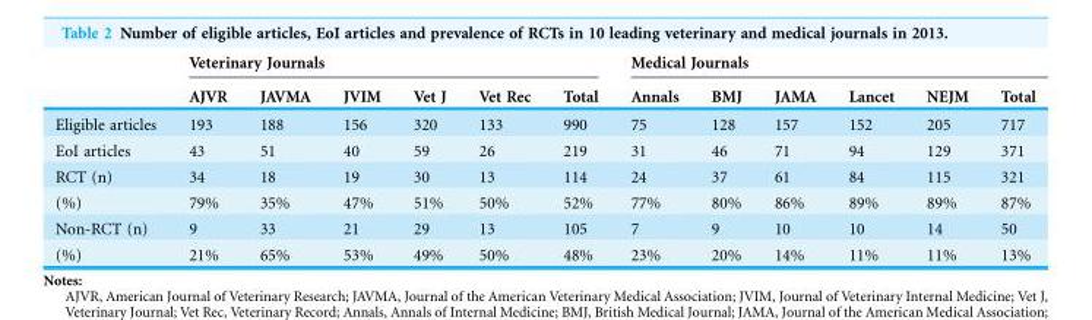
<table><thead><tr><td rowspan="2"></td><td colspan="6">Veterinary Journals</td><td colspan="6">Medical Journals</td></tr><tr><td>AJVR</td><td>JAVMA</td><td>JVIM</td><td>Vet J</td><td>Vet Rec</td><td>Total</td><td>Annals</td><td>BMJ</td><td>JAMA</td><td>Lancet</td><td>NEJM</td><td>Total</td></tr></thead><tbody><tr><td>Eligible articles</td><td>193</td><td>188</td><td>156</td><td>320</td><td>133</td><td>990</td><td>75</td><td>128</td><td>157</td><td>152</td><td>205</td><td>717</td></tr><tr><td>EoI articles</td><td>43</td><td>51</td><td>40</td><td>59</td><td>26</td><td>219</td><td>31</td><td>46</td><td>71</td><td>94</td><td>129</td><td>371</td></tr><tr><td>RCT (n)</td><td>34</td><td>18</td><td>19</td><td>30</td><td>13</td><td>114</td><td>24</td><td>37</td><td>61</td><td>84</td><td>115</td><td>321</td></tr><tr><td>(%)</td><td>79%</td><td>35%</td><td>47%</td><td>51%</td><td>50%</td><td>52%</td><td>77%</td><td>80%</td><td>86%</td><td>89%</td><td>89%</td><td>87%</td></tr><tr><td>Non-RCT (n)</td><td>9</td><td>33</td><td>21</td><td>29</td><td>13</td><td>105</td><td>7</td><td>9</td><td>10</td><td>10</td><td>14</td><td>50</td></tr><tr><td>(%)</td><td>21%</td><td>65%</td><td>53%</td><td>49%</td><td>50%</td><td>48%</td><td>23%</td><td>20%</td><td>14%</td><td>11%</td><td>11%</td><td>13%</td></tr></tbody></table>